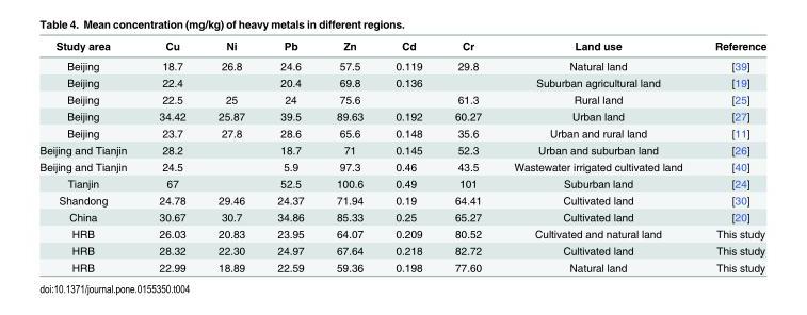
<table><thead><tr><td>Study area</td><td>Cu</td><td>Ni</td><td>Pb</td><td>Zn</td><td>Cd</td><td>Cr</td><td>Land use</td><td>Reference</td></tr></thead><tbody><tr><td>Beijing</td><td>18.7</td><td>26.8</td><td>24.6</td><td>57.5</td><td>0.119</td><td>29.8</td><td>Natural land</td><td>[39]</td></tr><tr><td>Beijing</td><td>22.4</td><td></td><td>20.4</td><td>69.8</td><td>0.136</td><td></td><td>Suburban agricultural land</td><td>[19]</td></tr><tr><td>Beijing</td><td>22.5</td><td>25</td><td>24</td><td>75.6</td><td></td><td>61.3</td><td>Rural land</td><td>[25]</td></tr><tr><td>Beijing</td><td>34.42</td><td>25.87</td><td>39.5</td><td>89.63</td><td>0.192</td><td>60.27</td><td>Urban land</td><td>[27]</td></tr><tr><td>Beijing</td><td>23.7</td><td>27.8</td><td>28.6</td><td>65.6</td><td>0.148</td><td>35.6</td><td>Urban and rural land</td><td>[11]</td></tr><tr><td>Beijing and Tianjin</td><td>28.2</td><td></td><td>18.7</td><td>71</td><td>0.145</td><td>52.3</td><td>Urban and suburban land</td><td>[26]</td></tr><tr><td>Beijing and Tianjin</td><td>24.5</td><td></td><td>5.9</td><td>97.3</td><td>0.46</td><td>43.5</td><td>Wastewater irrigated cultivated land</td><td>[40]</td></tr><tr><td>Tianjin</td><td>67</td><td></td><td>52.5</td><td>100.6</td><td>0.49</td><td>101</td><td>Suburban land</td><td>[24]</td></tr><tr><td>Shandong</td><td>24.78</td><td>29.46</td><td>24.37</td><td>71.94</td><td>0.19</td><td>64.41</td><td>Cultivated land</td><td>[30]</td></tr><tr><td>China</td><td>30.67</td><td>30.7</td><td>34.86</td><td>85.33</td><td>0.25</td><td>65.27</td><td>Cultivated land</td><td>[20]</td></tr><tr><td>HRB</td><td>26.03</td><td>20.83</td><td>23.95</td><td>64.07</td><td>0.209</td><td>80.52</td><td>Cultivated and natural land</td><td>This study</td></tr><tr><td>HRB</td><td>28.32</td><td>22.30</td><td>24.97</td><td>67.64</td><td>0.218</td><td>82.72</td><td>Cultivated land</td><td>This study</td></tr><tr><td>HRB</td><td>22.99</td><td>18.89</td><td>22.59</td><td>59.36</td><td>0.198</td><td>77.60</td><td>Natural land</td><td>This study</td></tr></tbody></table>